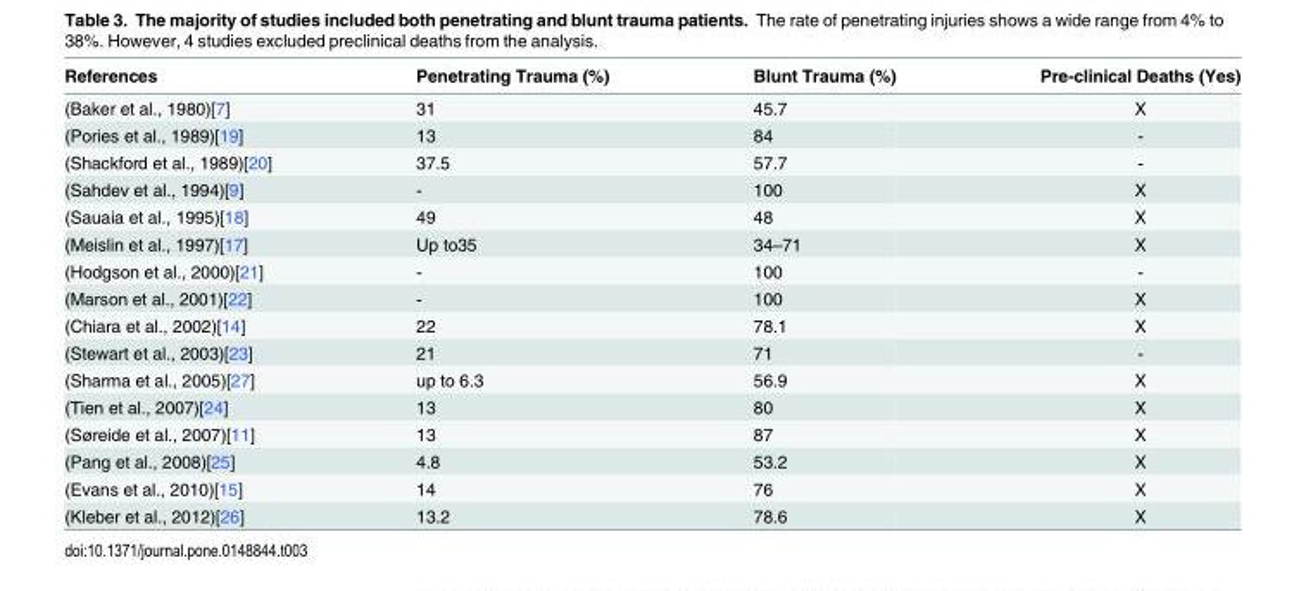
<table><thead><tr><td>References</td><td>Penetrating Trauma (%)</td><td>Blunt Trauma (%)</td><td>Pre-clinical Deaths (Yes)</td></tr></thead><tbody><tr><td>(Baker et al., 1980)[7]</td><td>31</td><td>45.7</td><td>X</td></tr><tr><td>(Pories et al., 1989)[19]</td><td>13</td><td>84</td><td>-</td></tr><tr><td>(Shackford et al., 1989)[20]</td><td>37.5</td><td>57.7</td><td>-</td></tr><tr><td>(Sahdev et al., 1994)[9]</td><td>-</td><td>100</td><td>X</td></tr><tr><td>(Sauaia et al., 1995)[18]</td><td>49</td><td>48</td><td>X</td></tr><tr><td>(Meislin et al., 1997)[17]</td><td>Up to35</td><td>34–71</td><td>X</td></tr><tr><td>(Hodgson et al., 2000)[21]</td><td>-</td><td>100</td><td>-</td></tr><tr><td>(Marson et al., 2001)[22]</td><td>-</td><td>100</td><td>X</td></tr><tr><td>(Chiara et al., 2002)[14]</td><td>22</td><td>78.1</td><td>X</td></tr><tr><td>(Stewart et al., 2003)[23]</td><td>21</td><td>71</td><td>-</td></tr><tr><td>(Sharma et al., 2005)[27]</td><td>up to 6.3</td><td>56.9</td><td>X</td></tr><tr><td>(Tien et al., 2007)[24]</td><td>13</td><td>80</td><td>X</td></tr><tr><td>(Søreide et al., 2007)[11]</td><td>13</td><td>87</td><td>X</td></tr><tr><td>(Pang et al., 2008)[25]</td><td>4.8</td><td>53.2</td><td>X</td></tr><tr><td>(Evans et al., 2010)[15]</td><td>14</td><td>76</td><td>X</td></tr><tr><td>(Kleber et al., 2012)[26]</td><td>13.2</td><td>78.6</td><td>X</td></tr></tbody></table>